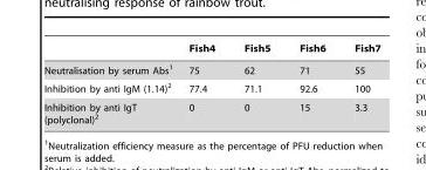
<table><thead><tr><td></td><td>Fish4</td><td>Fish5</td><td>Fish6</td><td>Fish7</td></tr></thead><tbody><tr><td>Neutralisation by serum Abs<sup>1</sup></td><td>75</td><td>62</td><td>71</td><td>55</td></tr><tr><td>Inhibition by anti IgM (1.14)<sup>2</sup></td><td>77.4</td><td>71.1</td><td>92.6</td><td>100</td></tr><tr><td>Inhibition by anti IgT (polyclonal)<sup>2</sup></td><td>0</td><td>0</td><td>15</td><td>3.3</td></tr></tbody></table>